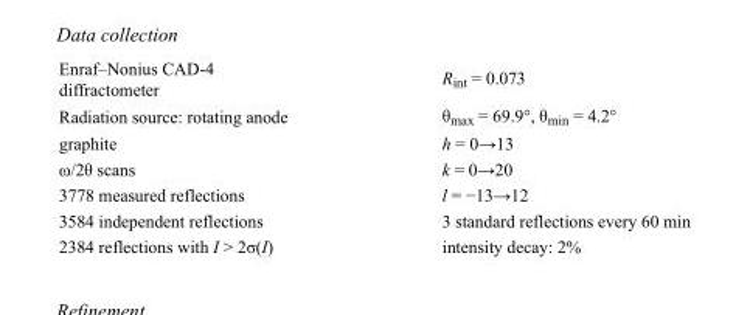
<table><tbody><tr><td>Enraf–Nonius CAD-4 diffractometer</td><td>R<sub>int</sub> = 0.073</td></tr><tr><td>Radiation source: rotating anode</td><td>θ<sub>max</sub> = 69.9°, θ<sub>min</sub> = 4.2°</td></tr><tr><td>graphite</td><td>h = 0→13</td></tr><tr><td>ω/2θ scans</td><td>k = 0→20</td></tr><tr><td>3778 measured reflections</td><td>l = −13→12</td></tr><tr><td>3584 independent reflections</td><td>3 standard reflections every 60 min</td></tr><tr><td>2384 reflections with I &gt; 2σ(I)</td><td>intensity decay: 2%</td></tr></tbody></table>